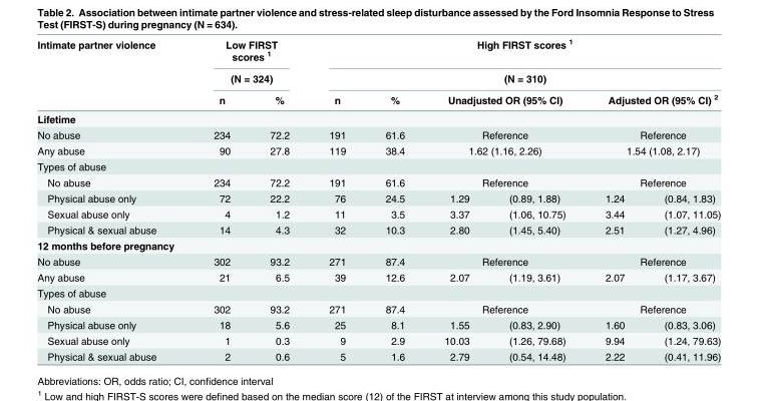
<table><thead><tr><td rowspan="3">Intimate partner violence</td><td rowspan="2" colspan="2">Low FIRST scores <sup>1</sup> (N = 324)</td><td rowspan="2" colspan="6">High FIRST scores <sup>1</sup> (N = 310)</td></tr><tr></tr><tr><td>n</td><td>%</td><td>n</td><td>%</td><td colspan="2">Unadjusted OR (95% CI)</td><td colspan="2">Adjusted OR (95% CI) <sup>2</sup></td></tr></thead><tbody><tr><td colspan="9">Lifetime</td></tr><tr><td>No abuse</td><td>234</td><td>72.2</td><td>191</td><td>61.6</td><td colspan="2">Reference</td><td colspan="2">Reference</td></tr><tr><td>Any abuse</td><td>90</td><td>27.8</td><td>119</td><td>38.4</td><td colspan="2">1.62 (1.16, 2.26)</td><td colspan="2">1.54 (1.08, 2.17)</td></tr><tr><td colspan="9">Types of abuse</td></tr><tr><td>No abuse</td><td>234</td><td>72.2</td><td>191</td><td>61.6</td><td colspan="2">Reference</td><td colspan="2">Reference</td></tr><tr><td>Physical abuse only</td><td>72</td><td>22.2</td><td>76</td><td>24.5</td><td>1.29</td><td>(0.89, 1.88)</td><td>1.24</td><td>(0.84, 1.83)</td></tr><tr><td>Sexual abuse only</td><td>4</td><td>1.2</td><td>11</td><td>3.5</td><td>3.37</td><td>(1.06, 10.75)</td><td>3.44</td><td>(1.07, 11.05)</td></tr><tr><td>Physical &amp; sexual abuse</td><td>14</td><td>4.3</td><td>32</td><td>10.3</td><td>2.80</td><td>(1.45, 5.40)</td><td>2.51</td><td>(1.27, 4.96)</td></tr><tr><td colspan="9">12 months before pregnancy</td></tr><tr><td>No abuse</td><td>302</td><td>93.2</td><td>271</td><td>87.4</td><td colspan="2">Reference</td><td colspan="2">Reference</td></tr><tr><td>Any abuse</td><td>21</td><td>6.5</td><td>39</td><td>12.6</td><td>2.07</td><td>(1.19, 3.61)</td><td>2.07</td><td>(1.17, 3.67)</td></tr><tr><td colspan="9">Types of abuse</td></tr><tr><td>No abuse</td><td>302</td><td>93.2</td><td>271</td><td>87.4</td><td colspan="2">Reference</td><td colspan="2">Reference</td></tr><tr><td>Physical abuse only</td><td>18</td><td>5.6</td><td>25</td><td>8.1</td><td>1.55</td><td>(0.83, 2.90)</td><td>1.60</td><td>(0.83, 3.06)</td></tr><tr><td>Sexual abuse only</td><td>1</td><td>0.3</td><td>9</td><td>2.9</td><td>10.03</td><td>(1.26, 79.68)</td><td>9.94</td><td>(1.24, 79.63)</td></tr><tr><td>Physical &amp; sexual abuse</td><td>2</td><td>0.6</td><td>5</td><td>1.6</td><td>2.79</td><td>(0.54, 14.48)</td><td>2.22</td><td>(0.41, 11.96)</td></tr></tbody></table>